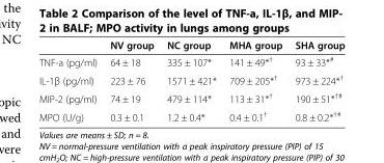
<table><thead><tr><td></td><td>NV group</td><td>NC group</td><td>MHA group</td><td>SHA group</td></tr></thead><tbody><tr><td>TNF-a (pg/ml)</td><td>64 ± 18</td><td>335 ± 107*</td><td>141 ± 49*<sup>†</sup></td><td>93 ± 33*<sup>#</sup></td></tr><tr><td>IL-1β (pg/ml)</td><td>223 ± 76</td><td>1571 ± 421*</td><td>709 ± 205*<sup>†</sup></td><td>973 ± 224*<sup>†</sup></td></tr><tr><td>MIP-2 (pg/ml)</td><td>74 ± 19</td><td>479 ± 114*</td><td>113 ± 31*<sup>†</sup></td><td>190 ± 51*<sup>†#</sup></td></tr><tr><td>MPO (U/g)</td><td>0.3 ± 0.1</td><td>1.2 ± 0.4*</td><td>0.4 ± 0.1<sup>†</sup></td><td>0.8 ± 0.2*<sup>†#</sup></td></tr></tbody></table>